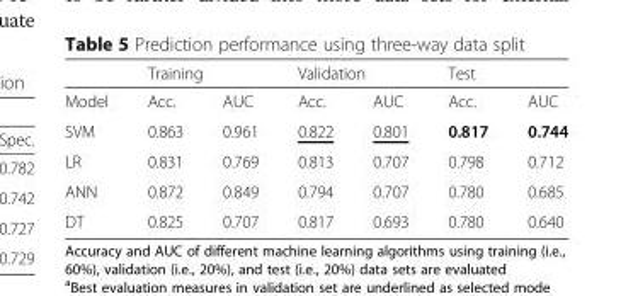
<table><thead><tr><td rowspan="2">Model</td><td colspan="2">Training</td><td colspan="2">Validation</td><td colspan="2">Test</td></tr><tr><td>Acc.</td><td>AUC</td><td>Acc.</td><td>AUC</td><td>Acc.</td><td>AUC</td></tr></thead><tbody><tr><td>SVM</td><td>0.863</td><td>0.961</td><td>0.822</td><td>0.801</td><td>0.817</td><td>0.744</td></tr><tr><td>LR</td><td>0.831</td><td>0.769</td><td>0.813</td><td>0.707</td><td>0.798</td><td>0.712</td></tr><tr><td>ANN</td><td>0.872</td><td>0.849</td><td>0.794</td><td>0.707</td><td>0.780</td><td>0.685</td></tr><tr><td>DT</td><td>0.825</td><td>0.707</td><td>0.817</td><td>0.693</td><td>0.780</td><td>0.640</td></tr></tbody></table>